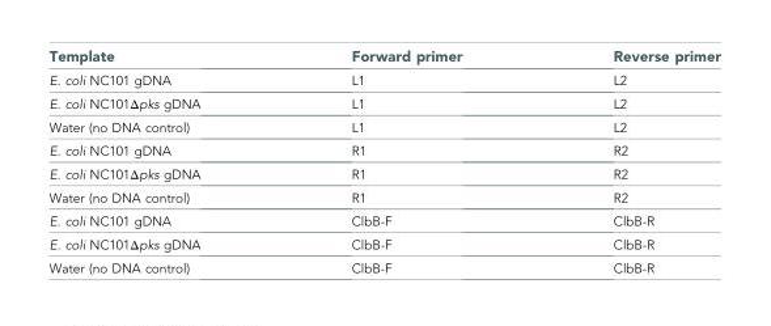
<table><thead><tr><td>Template</td><td>Forward primer</td><td>Reverse primer</td></tr></thead><tbody><tr><td>E. coli NC101 gDNA</td><td>L1</td><td>L2</td></tr><tr><td>E. coli NC101Δpks gDNA</td><td>L1</td><td>L2</td></tr><tr><td>Water (no DNA control)</td><td>L1</td><td>L2</td></tr><tr><td>E. coli NC101 gDNA</td><td>R1</td><td>R2</td></tr><tr><td>E. coli NC101Δpks gDNA</td><td>R1</td><td>R2</td></tr><tr><td>Water (no DNA control)</td><td>R1</td><td>R2</td></tr><tr><td>E. coli NC101 gDNA</td><td>ClbB-F</td><td>ClbB-R</td></tr><tr><td>E. coli NC101Δpks gDNA</td><td>ClbB-F</td><td>ClbB-R</td></tr><tr><td>Water (no DNA control)</td><td>ClbB-F</td><td>ClbB-R</td></tr></tbody></table>